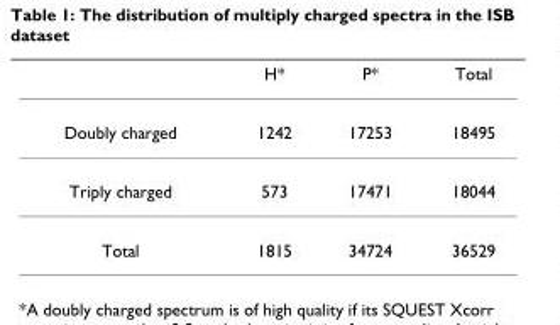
<table><thead><tr><td></td><td>H*</td><td>P*</td><td>Total</td></tr></thead><tbody><tr><td>Doubly charged</td><td>1242</td><td>17253</td><td>18495</td></tr><tr><td>Triply charged</td><td>573</td><td>17471</td><td>18044</td></tr><tr><td>Total</td><td>1815</td><td>34724</td><td>36529</td></tr></tbody></table>